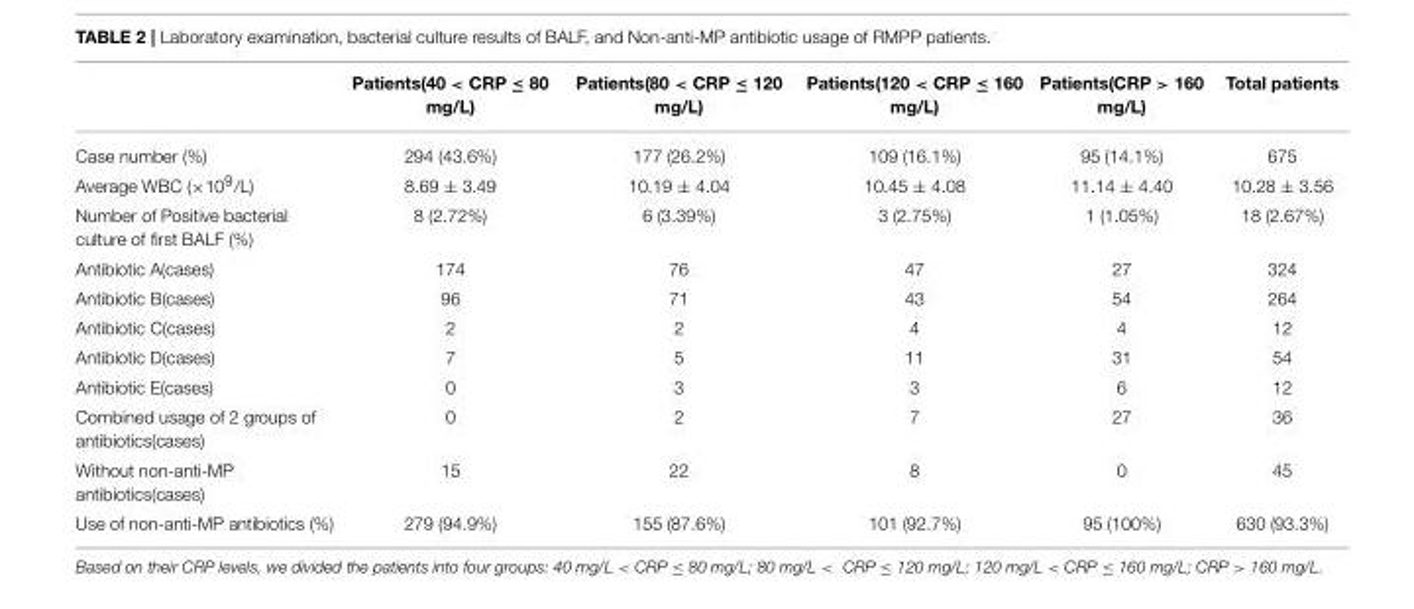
<table><thead><tr><td></td><td>Patients(40 &lt; CRP ≤ 80 mg/L)</td><td>Patients(80 &lt; CRP ≤ 120 mg/L)</td><td>Patients(120 &lt; CRP ≤ 160 mg/L)</td><td>Patients(CRP &gt; 160 mg/L)</td><td>Total patients</td></tr></thead><tbody><tr><td>Case number (%)</td><td>294 (43.6%)</td><td>177 (26.2%)</td><td>109 (16.1%)</td><td>95 (14.1%)</td><td>675</td></tr><tr><td>Average WBC (×10<sup>9</sup>/L)</td><td>8.69 ± 3.49</td><td>10.19 ± 4.04</td><td>10.45 ± 4.08</td><td>11.14 ± 4.40</td><td>10.28 ± 3.56</td></tr><tr><td>Number of Positive bacterial culture of first BALF (%)</td><td>8 (2.72%)</td><td>6 (3.39%)</td><td>3 (2.75%)</td><td>1 (1.05%)</td><td>18 (2.67%)</td></tr><tr><td>Antibiotic A(cases)</td><td>174</td><td>76</td><td>47</td><td>27</td><td>324</td></tr><tr><td>Antibiotic B(cases)</td><td>96</td><td>71</td><td>43</td><td>54</td><td>264</td></tr><tr><td>Antibiotic C(cases)</td><td>2</td><td>2</td><td>4</td><td>4</td><td>12</td></tr><tr><td>Antibiotic D(cases)</td><td>7</td><td>5</td><td>11</td><td>31</td><td>54</td></tr><tr><td>Antibiotic E(cases)</td><td>0</td><td>3</td><td>3</td><td>6</td><td>12</td></tr><tr><td>Combined usage of 2 groups of antibiotics(cases)</td><td>0</td><td>2</td><td>7</td><td>27</td><td>36</td></tr><tr><td>Without non-anti-MP antibiotics(cases)</td><td>15</td><td>22</td><td>8</td><td>0</td><td>45</td></tr><tr><td>Use of non-anti-MP antibiotics (%)</td><td>279 (94.9%)</td><td>155 (87.6%)</td><td>101 (92.7%)</td><td>95 (100%)</td><td>630 (93.3%)</td></tr></tbody></table>